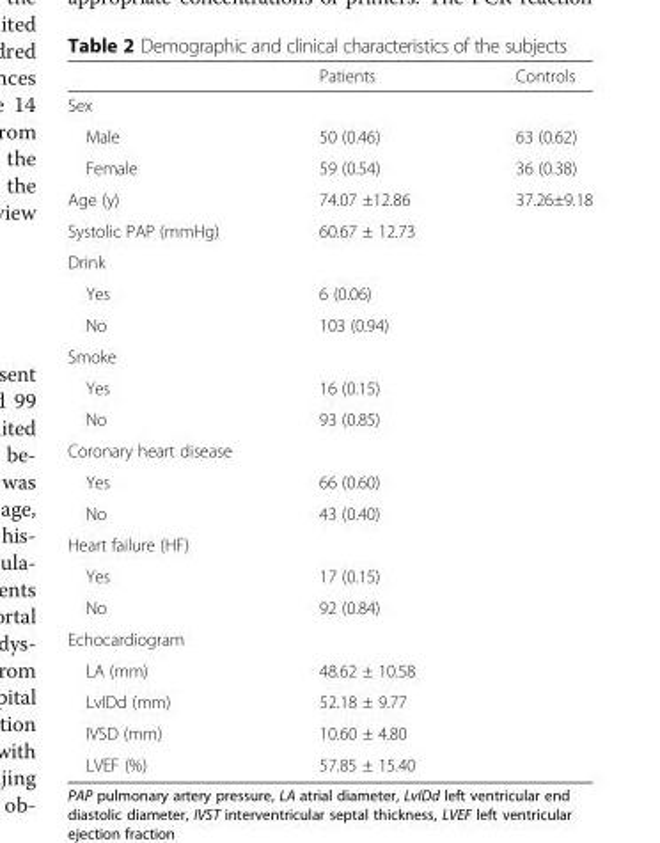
<table><thead><tr><td></td><td>Patients</td><td>Controls</td></tr></thead><tbody><tr><td colspan="3">Sex</td></tr><tr><td>Male</td><td>50 (0.46)</td><td>63 (0.62)</td></tr><tr><td>Female</td><td>59 (0.54)</td><td>36 (0.38)</td></tr><tr><td>Age (y)</td><td>74.07 ±12.86</td><td>37.26±9.18</td></tr><tr><td>Systolic PAP (mmHg)</td><td>60.67 ± 12.73</td><td></td></tr><tr><td colspan="3">Drink</td></tr><tr><td>Yes</td><td>6 (0.06)</td><td></td></tr><tr><td>No</td><td>103 (0.94)</td><td></td></tr><tr><td colspan="3">Smoke</td></tr><tr><td>Yes</td><td>16 (0.15)</td><td></td></tr><tr><td>No</td><td>93 (0.85)</td><td></td></tr><tr><td colspan="3">Coronary heart disease</td></tr><tr><td>Yes</td><td>66 (0.60)</td><td></td></tr><tr><td>No</td><td>43 (0.40)</td><td></td></tr><tr><td colspan="3">Heart failure (HF)</td></tr><tr><td>Yes</td><td>17 (0.15)</td><td></td></tr><tr><td>No</td><td>92 (0.84)</td><td></td></tr><tr><td colspan="3">Echocardiogram</td></tr><tr><td>LA (mm)</td><td>48.62 ± 10.58</td><td></td></tr><tr><td>LvIDd (mm)</td><td>52.18 ± 9.77</td><td></td></tr><tr><td>IVSD (mm)</td><td>10.60 ± 4.80</td><td></td></tr><tr><td>LVEF (%)</td><td>57.85 ± 15.40</td><td></td></tr></tbody></table>